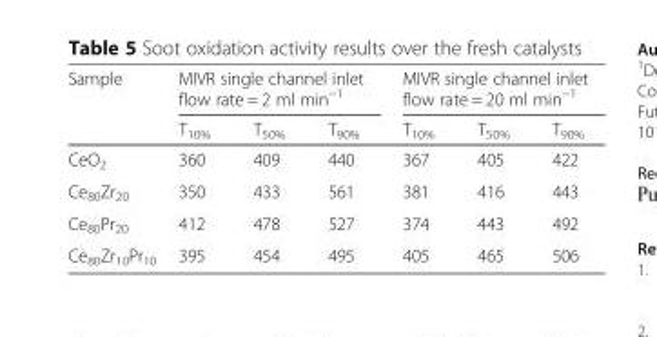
<table><thead><tr><td rowspan="2">Sample</td><td colspan="3">MIVR single channel inlet flow rate = 2 ml min<sup>−1</sup></td><td colspan="3">MIVR single channel inlet flow rate = 20 ml min<sup>−1</sup></td></tr><tr><td>T<sub>10%</sub></td><td>T<sub>50%</sub></td><td>T<sub>90%</sub></td><td>T<sub>10%</sub></td><td>T<sub>50%</sub></td><td>T<sub>90%</sub></td></tr></thead><tbody><tr><td>CeO<sub>2</sub></td><td>360</td><td>409</td><td>440</td><td>367</td><td>405</td><td>422</td></tr><tr><td>Ce<sub>80</sub>Zr<sub>20</sub></td><td>350</td><td>433</td><td>561</td><td>381</td><td>416</td><td>443</td></tr><tr><td>Ce<sub>80</sub>Pr<sub>20</sub></td><td>412</td><td>478</td><td>527</td><td>374</td><td>443</td><td>492</td></tr><tr><td>Ce<sub>80</sub>Zr<sub>10</sub>Pr<sub>10</sub></td><td>395</td><td>454</td><td>495</td><td>405</td><td>465</td><td>506</td></tr></tbody></table>